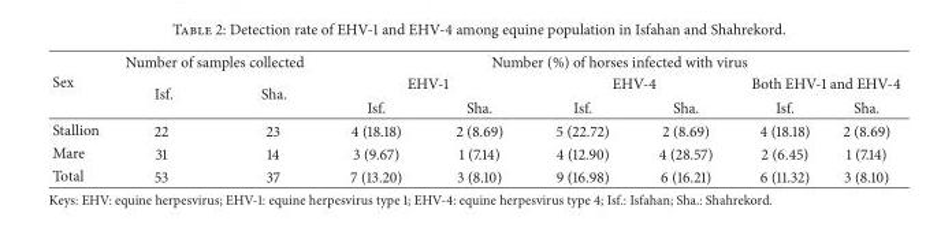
<table><thead><tr><td rowspan="3">Sex</td><td colspan="2">Number of samples collected</td><td colspan="6">Number (%) of horses infected with virus</td></tr><tr><td rowspan="2">Isf.</td><td rowspan="2">Sha.</td><td colspan="2">EHV-1</td><td colspan="2">EHV-4</td><td colspan="2">Both EHV-1 and EHV-4</td></tr><tr><td>Isf.</td><td>Sha.</td><td>Isf.</td><td>Sha.</td><td>Isf.</td><td>Sha.</td></tr></thead><tbody><tr><td>Stallion</td><td>22</td><td>23</td><td>4 (18.18)</td><td>2 (8.69)</td><td>5 (22.72)</td><td>2 (8.69)</td><td>4 (18.18)</td><td>2 (8.69)</td></tr><tr><td>Mare</td><td>31</td><td>14</td><td>3 (9.67)</td><td>1 (7.14)</td><td>4 (12.90)</td><td>4 (28.57)</td><td>2 (6.45)</td><td>1 (7.14)</td></tr><tr><td>Total</td><td>53</td><td>37</td><td>7 (13.20)</td><td>3 (8.10)</td><td>9 (16.98)</td><td>6 (16.21)</td><td>6 (11.32)</td><td>3 (8.10)</td></tr></tbody></table>